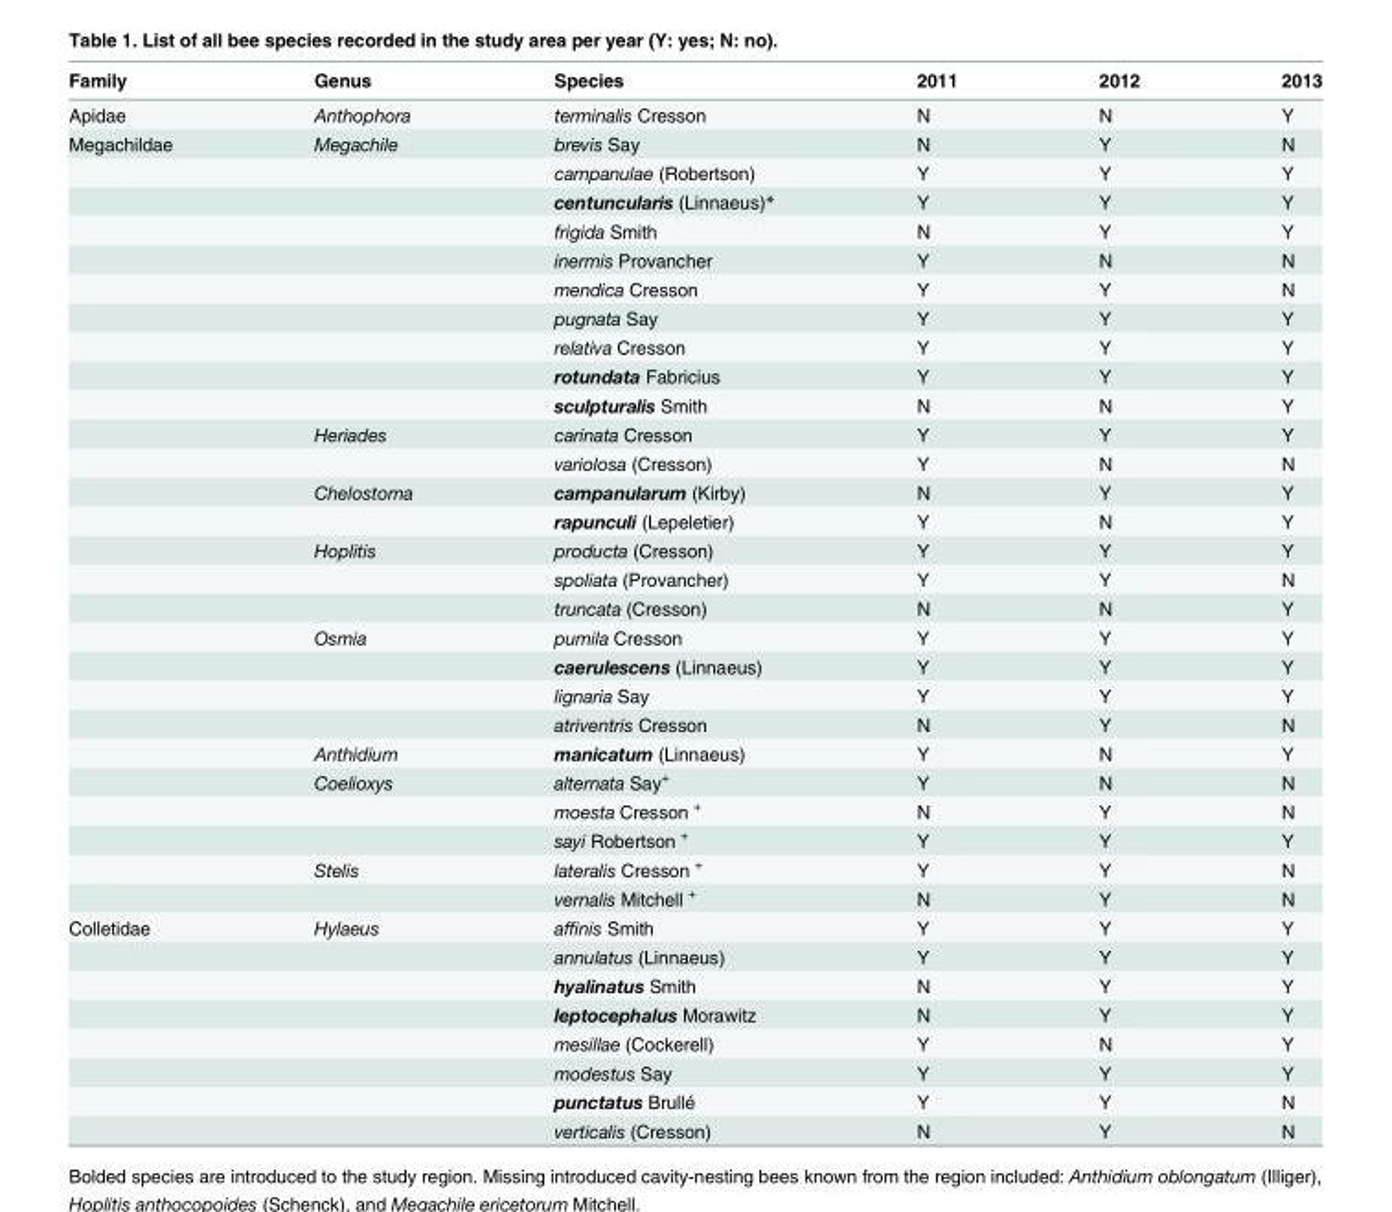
<table><thead><tr><td>Family</td><td>Genus</td><td>Species</td><td>2011</td><td>2012</td><td>2013</td></tr></thead><tbody><tr><td>Apidae</td><td>Anthophora</td><td>terminalis Cresson</td><td>N</td><td>N</td><td>Y</td></tr><tr><td rowspan="27">Megachildae</td><td>Megachile</td><td>brevis Say</td><td>N</td><td>Y</td><td>N</td></tr><tr><td></td><td>campanulae (Robertson)</td><td>Y</td><td>Y</td><td>Y</td></tr><tr><td></td><td>centuncularis (Linnaeus)*</td><td>Y</td><td>Y</td><td>Y</td></tr><tr><td></td><td>frigida Smith</td><td>N</td><td>Y</td><td>Y</td></tr><tr><td></td><td>inermis Provancher</td><td>Y</td><td>N</td><td>N</td></tr><tr><td></td><td>mendica Cresson</td><td>Y</td><td>Y</td><td>N</td></tr><tr><td></td><td>pugnata Say</td><td>Y</td><td>Y</td><td>Y</td></tr><tr><td></td><td>relativa Cresson</td><td>Y</td><td>Y</td><td>Y</td></tr><tr><td></td><td>rotundata Fabricius</td><td>Y</td><td>Y</td><td>Y</td></tr><tr><td></td><td>sculpturalis Smith</td><td>N</td><td>N</td><td>Y</td></tr><tr><td>Heriades</td><td>carinata Cresson</td><td>Y</td><td>Y</td><td>Y</td></tr><tr><td></td><td>variolosa (Cresson)</td><td>Y</td><td>N</td><td>N</td></tr><tr><td>Chelostoma</td><td>campanularum (Kirby)</td><td>N</td><td>Y</td><td>Y</td></tr><tr><td></td><td>rapunculi (Lepeletier)</td><td>Y</td><td>N</td><td>Y</td></tr><tr><td>Hoplitis</td><td>producta (Cresson)</td><td>Y</td><td>Y</td><td>Y</td></tr><tr><td></td><td>spoliata (Provancher)</td><td>Y</td><td>Y</td><td>N</td></tr><tr><td></td><td>truncata (Cresson)</td><td>N</td><td>N</td><td>Y</td></tr><tr><td>Osmia</td><td>pumila Cresson</td><td>Y</td><td>Y</td><td>Y</td></tr><tr><td></td><td>caerulescens (Linnaeus)</td><td>Y</td><td>Y</td><td>Y</td></tr><tr><td></td><td>lignaria Say</td><td>Y</td><td>Y</td><td>Y</td></tr><tr><td></td><td>atriventris Cresson</td><td>N</td><td>Y</td><td>N</td></tr><tr><td>Anthidium</td><td>manicatum (Linnaeus)</td><td>Y</td><td>N</td><td>Y</td></tr><tr><td>Coelioxys</td><td>alternata Say<sup>+</sup></td><td>Y</td><td>N</td><td>N</td></tr><tr><td></td><td>moesta Cresson <sup>+</sup></td><td>N</td><td>Y</td><td>N</td></tr><tr><td></td><td>sayi Robertson <sup>+</sup></td><td>Y</td><td>Y</td><td>Y</td></tr><tr><td>Stelis</td><td>lateralis Cresson <sup>+</sup></td><td>Y</td><td>Y</td><td>N</td></tr><tr><td></td><td>vernalis Mitchell <sup>+</sup></td><td>N</td><td>Y</td><td>N</td></tr><tr><td rowspan="8">Colletidae</td><td>Hylaeus</td><td>affinis Smith</td><td>Y</td><td>Y</td><td>Y</td></tr><tr><td></td><td>annulatus (Linnaeus)</td><td>Y</td><td>Y</td><td>Y</td></tr><tr><td></td><td>hyalinatus Smith</td><td>N</td><td>Y</td><td>Y</td></tr><tr><td></td><td>leptocephalus Morawitz</td><td>N</td><td>Y</td><td>Y</td></tr><tr><td></td><td>mesillae (Cockerell)</td><td>Y</td><td>N</td><td>Y</td></tr><tr><td></td><td>modestus Say</td><td>Y</td><td>Y</td><td>Y</td></tr><tr><td></td><td>punctatus Brullé</td><td>Y</td><td>Y</td><td>N</td></tr><tr><td></td><td>verticalis (Cresson)</td><td>N</td><td>Y</td><td>N</td></tr></tbody></table>